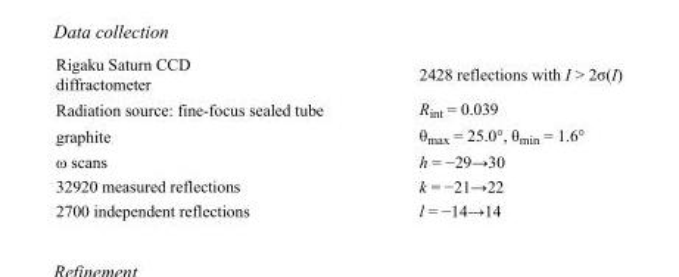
<table><tbody><tr><td>Rigaku Saturn CCD diffractometer</td><td>2428 reflections with I &gt; 2σ(I)</td></tr><tr><td>Radiation source: fine-focus sealed tube</td><td>R<sub>int</sub> = 0.039</td></tr><tr><td>graphite</td><td>θ<sub>max</sub> = 25.0°, θ<sub>min</sub> = 1.6°</td></tr><tr><td>ω scans</td><td>h = −29→30</td></tr><tr><td>32920 measured reflections</td><td>k = −21→22</td></tr><tr><td>2700 independent reflections</td><td>l = −14→14</td></tr></tbody></table>